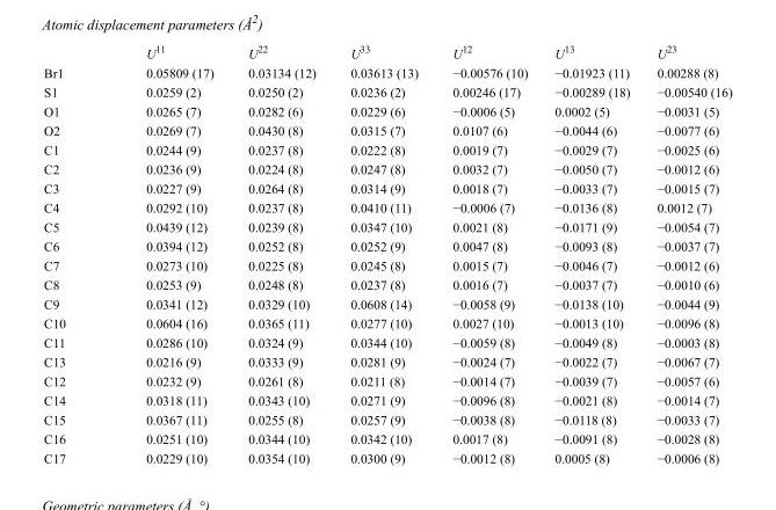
<table><thead><tr><td></td><td>U<sup>11</sup></td><td>U<sup>22</sup></td><td>U<sup>33</sup></td><td>U<sup>12</sup></td><td>U<sup>13</sup></td><td>U<sup>23</sup></td></tr></thead><tbody><tr><td>Br1</td><td>0.05809 (17)</td><td>0.03134 (12)</td><td>0.03613 (13)</td><td>−0.00576 (10)</td><td>−0.01923 (11)</td><td>0.00288 (8)</td></tr><tr><td>S1</td><td>0.0259 (2)</td><td>0.0250 (2)</td><td>0.0236 (2)</td><td>0.00246 (17)</td><td>−0.00289 (18)</td><td>−0.00540 (16)</td></tr><tr><td>O1</td><td>0.0265 (7)</td><td>0.0282 (6)</td><td>0.0229 (6)</td><td>−0.0006 (5)</td><td>0.0002 (5)</td><td>−0.0031 (5)</td></tr><tr><td>O2</td><td>0.0269 (7)</td><td>0.0430 (8)</td><td>0.0315 (7)</td><td>0.0107 (6)</td><td>−0.0044 (6)</td><td>−0.0077 (6)</td></tr><tr><td>C1</td><td>0.0244 (9)</td><td>0.0237 (8)</td><td>0.0222 (8)</td><td>0.0019 (7)</td><td>−0.0029 (7)</td><td>−0.0025 (6)</td></tr><tr><td>C2</td><td>0.0236 (9)</td><td>0.0224 (8)</td><td>0.0247 (8)</td><td>0.0032 (7)</td><td>−0.0050 (7)</td><td>−0.0012 (6)</td></tr><tr><td>C3</td><td>0.0227 (9)</td><td>0.0264 (8)</td><td>0.0314 (9)</td><td>0.0018 (7)</td><td>−0.0033 (7)</td><td>−0.0015 (7)</td></tr><tr><td>C4</td><td>0.0292 (10)</td><td>0.0237 (8)</td><td>0.0410 (11)</td><td>−0.0006 (7)</td><td>−0.0136 (8)</td><td>0.0012 (7)</td></tr><tr><td>C5</td><td>0.0439 (12)</td><td>0.0239 (8)</td><td>0.0347 (10)</td><td>0.0021 (8)</td><td>−0.0171 (9)</td><td>−0.0054 (7)</td></tr><tr><td>C6</td><td>0.0394 (12)</td><td>0.0252 (8)</td><td>0.0252 (9)</td><td>0.0047 (8)</td><td>−0.0093 (8)</td><td>−0.0037 (7)</td></tr><tr><td>C7</td><td>0.0273 (10)</td><td>0.0225 (8)</td><td>0.0245 (8)</td><td>0.0015 (7)</td><td>−0.0046 (7)</td><td>−0.0012 (6)</td></tr><tr><td>C8</td><td>0.0253 (9)</td><td>0.0248 (8)</td><td>0.0237 (8)</td><td>0.0016 (7)</td><td>−0.0037 (7)</td><td>−0.0010 (6)</td></tr><tr><td>C9</td><td>0.0341 (12)</td><td>0.0329 (10)</td><td>0.0608 (14)</td><td>−0.0058 (9)</td><td>−0.0138 (10)</td><td>−0.0044 (9)</td></tr><tr><td>C10</td><td>0.0604 (16)</td><td>0.0365 (11)</td><td>0.0277 (10)</td><td>0.0027 (10)</td><td>−0.0013 (10)</td><td>−0.0096 (8)</td></tr><tr><td>C11</td><td>0.0286 (10)</td><td>0.0324 (9)</td><td>0.0344 (10)</td><td>−0.0059 (8)</td><td>−0.0049 (8)</td><td>−0.0003 (8)</td></tr><tr><td>C13</td><td>0.0216 (9)</td><td>0.0333 (9)</td><td>0.0281 (9)</td><td>−0.0024 (7)</td><td>−0.0022 (7)</td><td>−0.0067 (7)</td></tr><tr><td>C12</td><td>0.0232 (9)</td><td>0.0261 (8)</td><td>0.0211 (8)</td><td>−0.0014 (7)</td><td>−0.0039 (7)</td><td>−0.0057 (6)</td></tr><tr><td>C14</td><td>0.0318 (11)</td><td>0.0343 (10)</td><td>0.0271 (9)</td><td>−0.0096 (8)</td><td>−0.0021 (8)</td><td>−0.0014 (7)</td></tr><tr><td>C15</td><td>0.0367 (11)</td><td>0.0255 (8)</td><td>0.0257 (9)</td><td>−0.0038 (8)</td><td>−0.0118 (8)</td><td>−0.0033 (7)</td></tr><tr><td>C16</td><td>0.0251 (10)</td><td>0.0344 (10)</td><td>0.0342 (10)</td><td>0.0017 (8)</td><td>−0.0091 (8)</td><td>−0.0028 (8)</td></tr><tr><td>C17</td><td>0.0229 (10)</td><td>0.0354 (10)</td><td>0.0300 (9)</td><td>−0.0012 (8)</td><td>0.0005 (8)</td><td>−0.0006 (8)</td></tr></tbody></table>